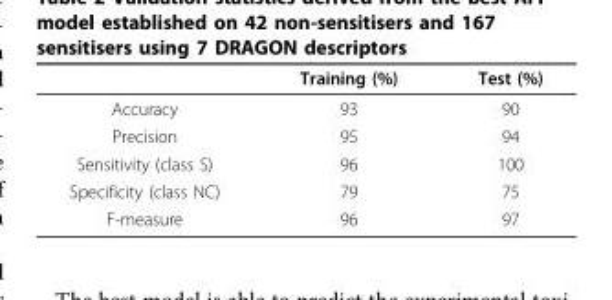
<table><thead><tr><td></td><td>Training (%)</td><td>Test (%)</td></tr></thead><tbody><tr><td>Accuracy</td><td>93</td><td>90</td></tr><tr><td>Precision</td><td>95</td><td>94</td></tr><tr><td>Sensitivity (class S)</td><td>96</td><td>100</td></tr><tr><td>Specificity (class NC)</td><td>79</td><td>75</td></tr><tr><td>F-measure</td><td>96</td><td>97</td></tr></tbody></table>